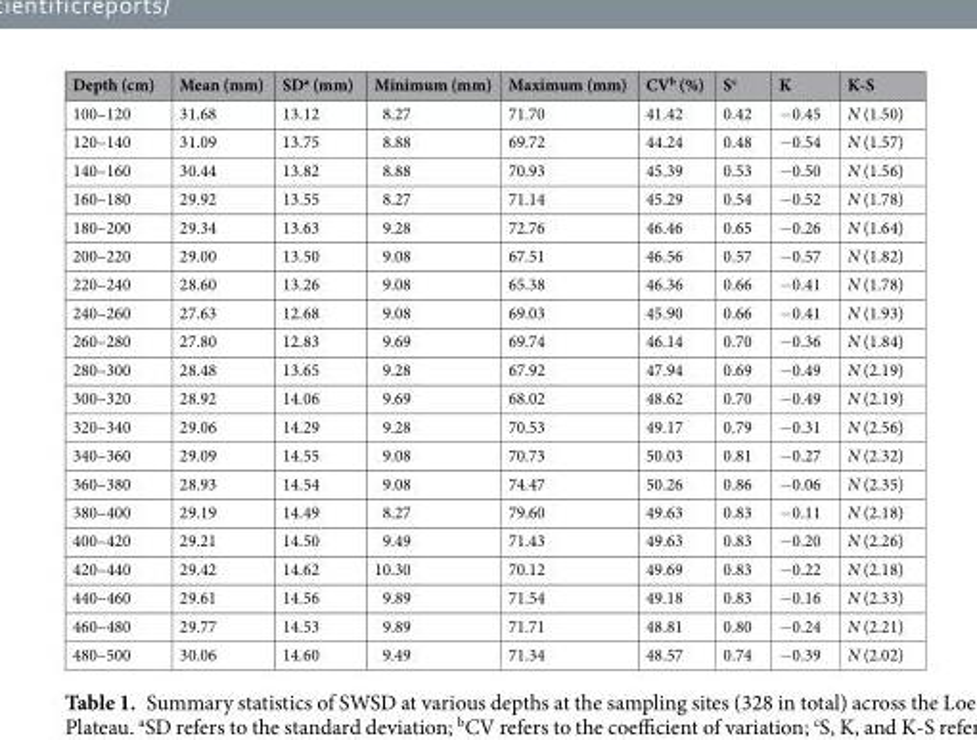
<table><thead><tr><td>Depth (cm)</td><td>Mean (mm)</td><td>SD<sup>a</sup> (mm)</td><td>Minimum (mm)</td><td>Maximum (mm)</td><td>CV<sup>b</sup> (%)</td><td>S<sup>c</sup></td><td>K</td><td>K-S</td></tr></thead><tbody><tr><td>100–120</td><td>31.68</td><td>13.12</td><td>8.27</td><td>71.70</td><td>41.42</td><td>0.42</td><td>−0.45</td><td>N (1.50)</td></tr><tr><td>120–140</td><td>31.09</td><td>13.75</td><td>8.88</td><td>69.72</td><td>44.24</td><td>0.48</td><td>−0.54</td><td>N (1.57)</td></tr><tr><td>140–160</td><td>30.44</td><td>13.82</td><td>8.88</td><td>70.93</td><td>45.39</td><td>0.53</td><td>−0.50</td><td>N (1.56)</td></tr><tr><td>160–180</td><td>29.92</td><td>13.55</td><td>8.27</td><td>71.14</td><td>45.29</td><td>0.54</td><td>−0.52</td><td>N (1.78)</td></tr><tr><td>180–200</td><td>29.34</td><td>13.63</td><td>9.28</td><td>72.76</td><td>46.46</td><td>0.65</td><td>−0.26</td><td>N (1.64)</td></tr><tr><td>200–220</td><td>29.00</td><td>13.50</td><td>9.08</td><td>67.51</td><td>46.56</td><td>0.57</td><td>−0.57</td><td>N (1.82)</td></tr><tr><td>220–240</td><td>28.60</td><td>13.26</td><td>9.08</td><td>65.38</td><td>46.36</td><td>0.66</td><td>−0.41</td><td>N (1.78)</td></tr><tr><td>240–260</td><td>27.63</td><td>12.68</td><td>9.08</td><td>69.03</td><td>45.90</td><td>0.66</td><td>−0.41</td><td>N (1.93)</td></tr><tr><td>260–280</td><td>27.80</td><td>12.83</td><td>9.69</td><td>69.74</td><td>46.14</td><td>0.70</td><td>−0.36</td><td>N (1.84)</td></tr><tr><td>280–300</td><td>28.48</td><td>13.65</td><td>9.28</td><td>67.92</td><td>47.94</td><td>0.69</td><td>−0.49</td><td>N (2.19)</td></tr><tr><td>300–320</td><td>28.92</td><td>14.06</td><td>9.69</td><td>68.02</td><td>48.62</td><td>0.70</td><td>−0.49</td><td>N (2.19)</td></tr><tr><td>320–340</td><td>29.06</td><td>14.29</td><td>9.28</td><td>70.53</td><td>49.17</td><td>0.79</td><td>−0.31</td><td>N (2.56)</td></tr><tr><td>340–360</td><td>29.09</td><td>14.55</td><td>9.08</td><td>70.73</td><td>50.03</td><td>0.81</td><td>−0.27</td><td>N (2.32)</td></tr><tr><td>360–380</td><td>28.93</td><td>14.54</td><td>9.08</td><td>74.47</td><td>50.26</td><td>0.86</td><td>−0.06</td><td>N (2.35)</td></tr><tr><td>380–400</td><td>29.19</td><td>14.49</td><td>8.27</td><td>79.60</td><td>49.63</td><td>0.83</td><td>−0.11</td><td>N (2.18)</td></tr><tr><td>400–420</td><td>29.21</td><td>14.50</td><td>9.49</td><td>71.43</td><td>49.63</td><td>0.83</td><td>−0.20</td><td>N (2.26)</td></tr><tr><td>420–440</td><td>29.42</td><td>14.62</td><td>10.30</td><td>70.12</td><td>49.69</td><td>0.83</td><td>−0.22</td><td>N (2.18)</td></tr><tr><td>440–460</td><td>29.61</td><td>14.56</td><td>9.89</td><td>71.54</td><td>49.18</td><td>0.83</td><td>−0.16</td><td>N (2.33)</td></tr><tr><td>460–480</td><td>29.77</td><td>14.53</td><td>9.89</td><td>71.71</td><td>48.81</td><td>0.80</td><td>−0.24</td><td>N (2.21)</td></tr><tr><td>480–500</td><td>30.06</td><td>14.60</td><td>9.49</td><td>71.34</td><td>48.57</td><td>0.74</td><td>−0.39</td><td>N (2.02)</td></tr></tbody></table>